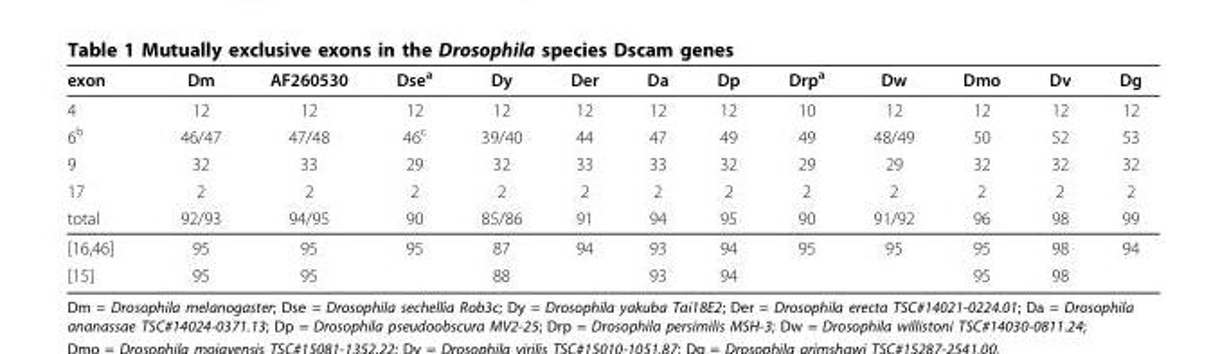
<table><thead><tr><td>exon</td><td>Dm</td><td>AF260530</td><td>Dse<sup>a</sup></td><td>Dy</td><td>Der</td><td>Da</td><td>Dp</td><td>Drp<sup>a</sup></td><td>Dw</td><td>Dmo</td><td>Dv</td><td>Dg</td></tr></thead><tbody><tr><td>4</td><td>12</td><td>12</td><td>12</td><td>12</td><td>12</td><td>12</td><td>12</td><td>10</td><td>12</td><td>12</td><td>12</td><td>12</td></tr><tr><td>6<sup>b</sup></td><td>46/47</td><td>47/48</td><td>46<sup>c</sup></td><td>39/40</td><td>44</td><td>47</td><td>49</td><td>49</td><td>48/49</td><td>50</td><td>52</td><td>53</td></tr><tr><td>9</td><td>32</td><td>33</td><td>29</td><td>32</td><td>33</td><td>33</td><td>32</td><td>29</td><td>29</td><td>32</td><td>32</td><td>32</td></tr><tr><td>17</td><td>2</td><td>2</td><td>2</td><td>2</td><td>2</td><td>2</td><td>2</td><td>2</td><td>2</td><td>2</td><td>2</td><td>2</td></tr><tr><td>total</td><td>92/93</td><td>94/95</td><td>90</td><td>85/86</td><td>91</td><td>94</td><td>95</td><td>90</td><td>91/92</td><td>96</td><td>98</td><td>99</td></tr><tr><td>[16,46]</td><td>95</td><td>95</td><td>95</td><td>87</td><td>94</td><td>93</td><td>94</td><td>95</td><td>95</td><td>95</td><td>98</td><td>94</td></tr><tr><td>[15]</td><td>95</td><td>95</td><td></td><td>88</td><td></td><td>93</td><td>94</td><td></td><td></td><td>95</td><td>98</td><td></td></tr></tbody></table>